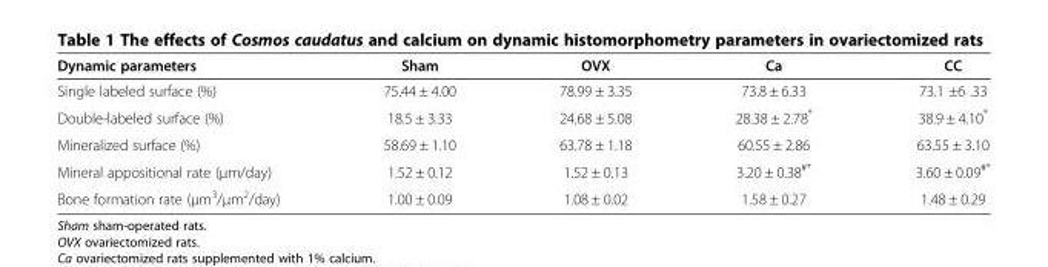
<table><thead><tr><td>Dynamic parameters</td><td>Sham</td><td>OVX</td><td>Ca</td><td>CC</td></tr></thead><tbody><tr><td>Single labeled surface (%)</td><td>75.44 ± 4.00</td><td>78.99 ± 3.35</td><td>73.8 ± 6.33</td><td>73.1 ±6 .33</td></tr><tr><td>Double-labeled surface (%)</td><td>18.5 ± 3.33</td><td>24.68 ± 5.08</td><td>28.38 ± 2.78*</td><td>38.9 ± 4.10*</td></tr><tr><td>Mineralized surface (%)</td><td>58.69 ± 1.10</td><td>63.78 ± 1.18</td><td>60.55 ± 2.86</td><td>63.55 ± 3.10</td></tr><tr><td>Mineral appositional rate (μm/day)</td><td>1.52 ± 0.12</td><td>1.52 ± 0.13</td><td>3.20 ± 0.38<sup>#*</sup></td><td>3.60 ± 0.09<sup>#*</sup></td></tr><tr><td>Bone formation rate (μm<sup>3</sup>/μm<sup>2</sup>/day)</td><td>1.00 ± 0.09</td><td>1.08 ± 0.02</td><td>1.58 ± 0.27</td><td>1.48 ± 0.29</td></tr></tbody></table>